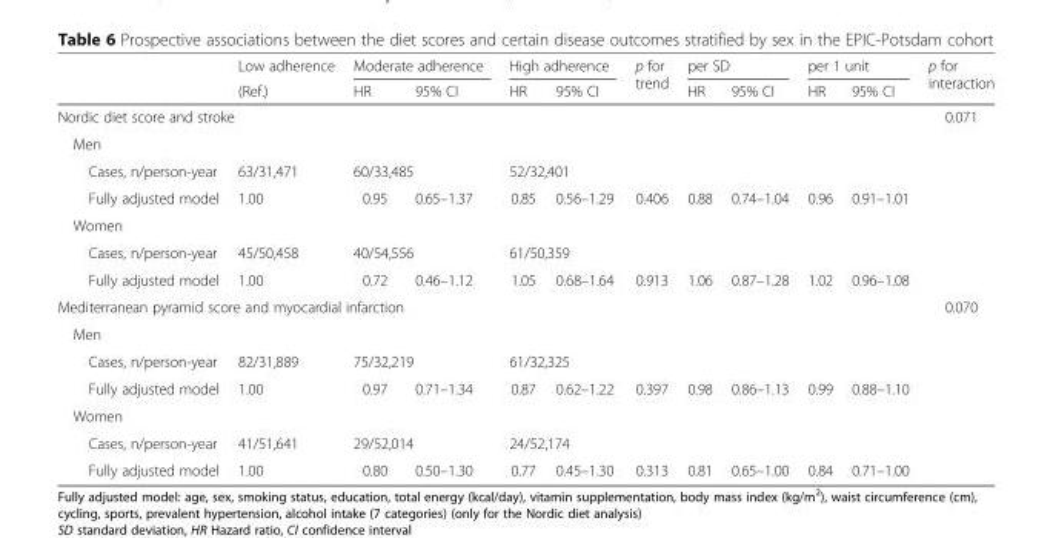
<table><thead><tr><td rowspan="2"></td><td rowspan="2">Low adherence (Ref.)</td><td colspan="2">Moderate adherence</td><td colspan="2">High adherence</td><td rowspan="2">p for trend</td><td colspan="2">per SD</td><td colspan="2">per 1 unit</td><td rowspan="2">p for interaction</td></tr><tr><td>HR</td><td>95% CI</td><td>HR</td><td>95% CI</td><td>HR</td><td>95% CI</td><td>HR</td><td>95% CI</td></tr></thead><tbody><tr><td colspan="11">Nordic diet score and stroke</td><td>0.071</td></tr><tr><td colspan="12">Men</td></tr><tr><td>Cases, n/person-year</td><td>63/31,471</td><td colspan="2">60/33,485</td><td colspan="2">52/32,401</td><td></td><td></td><td></td><td></td><td></td><td></td></tr><tr><td>Fully adjusted model</td><td>1.00</td><td>0.95</td><td>0.65–1.37</td><td>0.85</td><td>0.56–1.29</td><td>0.406</td><td>0.88</td><td>0.74–1.04</td><td>0.96</td><td>0.91–1.01</td><td></td></tr><tr><td colspan="12">Women</td></tr><tr><td>Cases, n/person-year</td><td>45/50,458</td><td colspan="2">40/54,556</td><td colspan="2">61/50,359</td><td></td><td></td><td></td><td></td><td></td><td></td></tr><tr><td>Fully adjusted model</td><td>1.00</td><td>0.72</td><td>0.46–1.12</td><td>1.05</td><td>0.68–1.64</td><td>0.913</td><td>1.06</td><td>0.87–1.28</td><td>1.02</td><td>0.96–1.08</td><td></td></tr><tr><td colspan="11">Mediterranean pyramid score and myocardial infarction</td><td>0.070</td></tr><tr><td colspan="12">Men</td></tr><tr><td>Cases, n/person-year</td><td>82/31,889</td><td colspan="2">75/32,219</td><td colspan="2">61/32,325</td><td></td><td></td><td></td><td></td><td></td><td></td></tr><tr><td>Fully adjusted model</td><td>1.00</td><td>0.97</td><td>0.71–1.34</td><td>0.87</td><td>0.62–1.22</td><td>0.397</td><td>0.98</td><td>0.86–1.13</td><td>0.99</td><td>0.88–1.10</td><td></td></tr><tr><td colspan="12">Women</td></tr><tr><td>Cases, n/person-year</td><td>41/51,641</td><td colspan="2">29/52,014</td><td colspan="2">24/52,174</td><td></td><td></td><td></td><td></td><td></td><td></td></tr><tr><td>Fully adjusted model</td><td>1.00</td><td>0.80</td><td>0.50–1.30</td><td>0.77</td><td>0.45–1.30</td><td>0.313</td><td>0.81</td><td>0.65–1.00</td><td>0.84</td><td>0.71–1.00</td><td></td></tr></tbody></table>